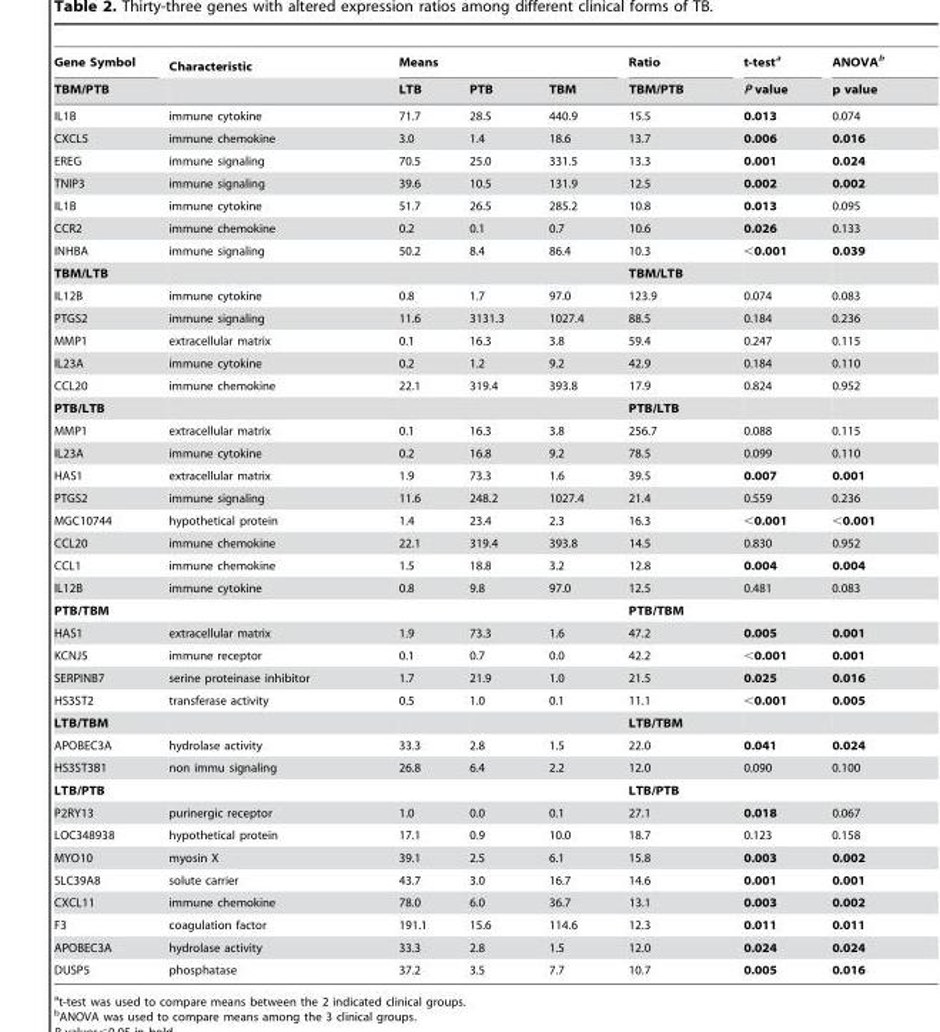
<table><thead><tr><td rowspan="2">Gene Symbol TBM/PTB</td><td rowspan="2">Characteristic</td><td colspan="3">Means</td><td rowspan="2">Ratio TBM/PTB</td><td rowspan="2">t-testa P value</td><td rowspan="2">ANOVAb p value</td></tr><tr><td>LTB</td><td>PTB</td><td>TBM</td></tr></thead><tbody><tr><td>IL1B</td><td>immune cytokine</td><td>71.7</td><td>28.5</td><td>440.9</td><td>15.5</td><td>0.013</td><td>0.074</td></tr><tr><td>CXCL5</td><td>immune chemokine</td><td>3.0</td><td>1.4</td><td>18.6</td><td>13.7</td><td>0.006</td><td>0.016</td></tr><tr><td>EREG</td><td>immune signaling</td><td>70.5</td><td>25.0</td><td>331.5</td><td>13.3</td><td>0.001</td><td>0.024</td></tr><tr><td>TNIP3</td><td>immune signaling</td><td>39.6</td><td>10.5</td><td>131.9</td><td>12.5</td><td>0.002</td><td>0.002</td></tr><tr><td>IL1B</td><td>immune cytokine</td><td>51.7</td><td>26.5</td><td>285.2</td><td>10.8</td><td>0.013</td><td>0.095</td></tr><tr><td>CCR2</td><td>immune chemokine</td><td>0.2</td><td>0.1</td><td>0.7</td><td>10.6</td><td>0.026</td><td>0.133</td></tr><tr><td>INHBA</td><td>immune signaling</td><td>50.2</td><td>8.4</td><td>86.4</td><td>10.3</td><td>&lt;0.001</td><td>0.039</td></tr><tr><td>TBM/LTB</td><td></td><td></td><td></td><td></td><td>TBM/LTB</td><td></td><td></td></tr><tr><td>IL12B</td><td>immune cytokine</td><td>0.8</td><td>1.7</td><td>97.0</td><td>123.9</td><td>0.074</td><td>0.083</td></tr><tr><td>PTGS2</td><td>immune signaling</td><td>11.6</td><td>3131.3</td><td>1027.4</td><td>88.5</td><td>0.184</td><td>0.236</td></tr><tr><td>MMP1</td><td>extracellular matrix</td><td>0.1</td><td>16.3</td><td>3.8</td><td>59.4</td><td>0.247</td><td>0.115</td></tr><tr><td>IL23A</td><td>immune cytokine</td><td>0.2</td><td>1.2</td><td>9.2</td><td>42.9</td><td>0.184</td><td>0.110</td></tr><tr><td>CCL20</td><td>immune chemokine</td><td>22.1</td><td>319.4</td><td>393.8</td><td>17.9</td><td>0.824</td><td>0.952</td></tr><tr><td>PTB/LTB</td><td></td><td></td><td></td><td></td><td>PTB/LTB</td><td></td><td></td></tr><tr><td>MMP1</td><td>extracellular matrix</td><td>0.1</td><td>16.3</td><td>3.8</td><td>256.7</td><td>0.088</td><td>0.115</td></tr><tr><td>IL23A</td><td>immune cytokine</td><td>0.2</td><td>16.8</td><td>9.2</td><td>78.5</td><td>0.099</td><td>0.110</td></tr><tr><td>HAS1</td><td>extracellular matrix</td><td>1.9</td><td>73.3</td><td>1.6</td><td>39.5</td><td>0.007</td><td>0.001</td></tr><tr><td>PTGS2</td><td>immune signaling</td><td>11.6</td><td>248.2</td><td>1027.4</td><td>21.4</td><td>0.559</td><td>0.236</td></tr><tr><td>MGC10744</td><td>hypothetical protein</td><td>1.4</td><td>23.4</td><td>2.3</td><td>16.3</td><td>&lt;0.001</td><td>&lt;0.001</td></tr><tr><td>CCL20</td><td>immune chemokine</td><td>22.1</td><td>319.4</td><td>393.8</td><td>14.5</td><td>0.830</td><td>0.952</td></tr><tr><td>CCL1</td><td>immune chemokine</td><td>1.5</td><td>18.8</td><td>3.2</td><td>12.8</td><td>0.004</td><td>0.004</td></tr><tr><td>IL12B</td><td>immune cytokine</td><td>0.8</td><td>9.8</td><td>97.0</td><td>12.5</td><td>0.481</td><td>0.083</td></tr><tr><td>PTB/TBM</td><td></td><td></td><td></td><td></td><td>PTB/TBM</td><td></td><td></td></tr><tr><td>HAS1</td><td>extracellular matrix</td><td>1.9</td><td>73.3</td><td>1.6</td><td>47.2</td><td>0.005</td><td>0.001</td></tr><tr><td>KCNJ5</td><td>immune receptor</td><td>0.1</td><td>0.7</td><td>0.0</td><td>42.2</td><td>&lt;0.001</td><td>0.001</td></tr><tr><td>SERPINB7</td><td>serine proteinase inhibitor</td><td>1.7</td><td>21.9</td><td>1.0</td><td>21.5</td><td>0.025</td><td>0.016</td></tr><tr><td>HS3ST2</td><td>transferase activity</td><td>0.5</td><td>1.0</td><td>0.1</td><td>11.1</td><td>&lt;0.001</td><td>0.005</td></tr><tr><td>LTB/TBM</td><td></td><td></td><td></td><td></td><td>LTB/TBM</td><td></td><td></td></tr><tr><td>APOBEC3A</td><td>hydrolase activity</td><td>33.3</td><td>2.8</td><td>1.5</td><td>22.0</td><td>0.041</td><td>0.024</td></tr><tr><td>HS3ST3B1</td><td>non immu signaling</td><td>26.8</td><td>6.4</td><td>2.2</td><td>12.0</td><td>0.090</td><td>0.100</td></tr><tr><td>LTB/PTB</td><td></td><td></td><td></td><td></td><td>LTB/PTB</td><td></td><td></td></tr><tr><td>P2RY13</td><td>purinergic receptor</td><td>1.0</td><td>0.0</td><td>0.1</td><td>27.1</td><td>0.018</td><td>0.067</td></tr><tr><td>LOC348938</td><td>hypothetical protein</td><td>17.1</td><td>0.9</td><td>10.0</td><td>18.7</td><td>0.123</td><td>0.158</td></tr><tr><td>MYO10</td><td>myosin X</td><td>39.1</td><td>2.5</td><td>6.1</td><td>15.8</td><td>0.003</td><td>0.002</td></tr><tr><td>SLC39A8</td><td>solute carrier</td><td>43.7</td><td>3.0</td><td>16.7</td><td>14.6</td><td>0.001</td><td>0.001</td></tr><tr><td>CXCL11</td><td>immune chemokine</td><td>78.0</td><td>6.0</td><td>36.7</td><td>13.1</td><td>0.003</td><td>0.002</td></tr><tr><td>F3</td><td>coagulation factor</td><td>191.1</td><td>15.6</td><td>114.6</td><td>12.3</td><td>0.011</td><td>0.011</td></tr><tr><td>APOBEC3A</td><td>hydrolase activity</td><td>33.3</td><td>2.8</td><td>1.5</td><td>12.0</td><td>0.024</td><td>0.024</td></tr><tr><td>DUSP5</td><td>phosphatase</td><td>37.2</td><td>3.5</td><td>7.7</td><td>10.7</td><td>0.005</td><td>0.016</td></tr></tbody></table>